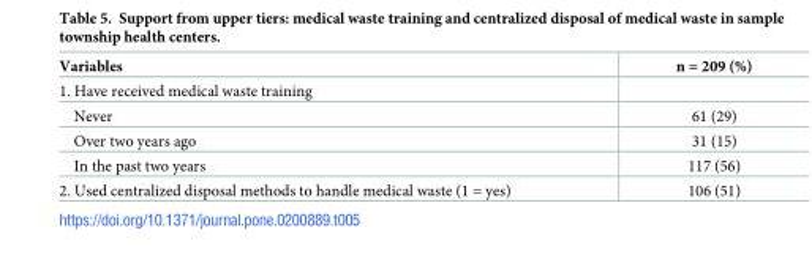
<table><thead><tr><td>Variables</td><td>n = 209 (%)</td></tr></thead><tbody><tr><td colspan="2">1. Have received medical waste training</td></tr><tr><td>Never</td><td>61 (29)</td></tr><tr><td>Over two years ago</td><td>31 (15)</td></tr><tr><td>In the past two years</td><td>117 (56)</td></tr><tr><td>2. Used centralized disposal methods to handle medical waste (1 = yes)</td><td>106 (51)</td></tr></tbody></table>